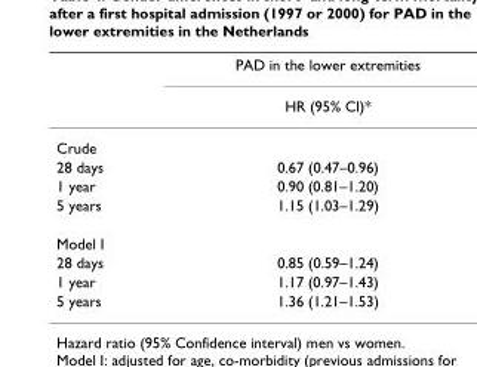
<table><thead><tr><td rowspan="2"></td><td rowspan="2">PAD in the lower extremities HR (95% CI)*</td></tr><tr></tr></thead><tbody><tr><td colspan="2">Crude</td></tr><tr><td>28 days</td><td>0.67 (0.47–0.96)</td></tr><tr><td>1 year</td><td>0.90 (0.81–1.20)</td></tr><tr><td>5 years</td><td>1.15 (1.03–1.29)</td></tr><tr><td colspan="2">Model I</td></tr><tr><td>28 days</td><td>0.85 (0.59–1.24)</td></tr><tr><td>1 year</td><td>1.17 (0.97–1.43)</td></tr><tr><td>5 years</td><td>1.36 (1.21–1.53)</td></tr></tbody></table>